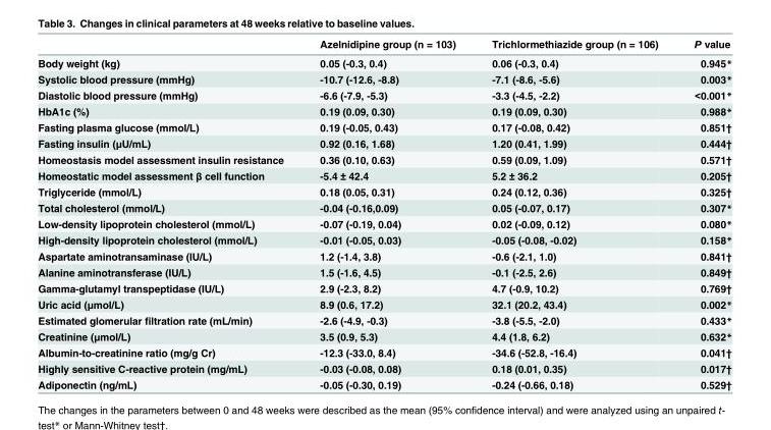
<table><thead><tr><td></td><td>Azelnidipine group (n = 103)</td><td>Trichlormethiazide group (n = 106)</td><td>P value</td></tr></thead><tbody><tr><td>Body weight (kg)</td><td>0.05 (-0.3, 0.4)</td><td>0.06 (-0.3, 0.4)</td><td>0.945*</td></tr><tr><td>Systolic blood pressure (mmHg)</td><td>-10.7 (-12.6, -8.8)</td><td>-7.1 (-8.6, -5.6)</td><td>0.003*</td></tr><tr><td>Diastolic blood pressure (mmHg)</td><td>-6.6 (-7.9, -5.3)</td><td>-3.3 (-4.5, -2.2)</td><td>&lt;0.001*</td></tr><tr><td>HbA1c (%)</td><td>0.19 (0.09, 0.30)</td><td>0.19 (0.09, 0.30)</td><td>0.988*</td></tr><tr><td>Fasting plasma glucose (mmol/L)</td><td>0.19 (-0.05, 0.43)</td><td>0.17 (-0.08, 0.42)</td><td>0.851†</td></tr><tr><td>Fasting insulin (μU/mL)</td><td>0.92 (0.16, 1.68)</td><td>1.20 (0.41, 1.99)</td><td>0.444†</td></tr><tr><td>Homeostasis model assessment insulin resistance</td><td>0.36 (0.10, 0.63)</td><td>0.59 (0.09, 1.09)</td><td>0.571†</td></tr><tr><td>Homeostatic model assessment β cell function</td><td>-5.4 ± 42.4</td><td>5.2 ± 36.2</td><td>0.205†</td></tr><tr><td>Triglyceride (mmol/L)</td><td>0.18 (0.05, 0.31)</td><td>0.24 (0.12, 0.36)</td><td>0.325†</td></tr><tr><td>Total cholesterol (mmol/L)</td><td>-0.04 (-0.16,0.09)</td><td>0.05 (-0.07, 0.17)</td><td>0.307*</td></tr><tr><td>Low-density lipoprotein cholesterol (mmol/L)</td><td>-0.07 (-0.19, 0.04)</td><td>0.02 (-0.09, 0.12)</td><td>0.080*</td></tr><tr><td>High-density lipoprotein cholesterol (mmol/L)</td><td>-0.01 (-0.05, 0.03)</td><td>-0.05 (-0.08, -0.02)</td><td>0.158*</td></tr><tr><td>Aspartate aminotransaminase (IU/L)</td><td>1.2 (-1.4, 3.8)</td><td>-0.6 (-2.1, 1.0)</td><td>0.841†</td></tr><tr><td>Alanine aminotransferase (IU/L)</td><td>1.5 (-1.6, 4.5)</td><td>-0.1 (-2.5, 2.6)</td><td>0.849†</td></tr><tr><td>Gamma-glutamyl transpeptidase (IU/L)</td><td>2.9 (-2.3, 8.2)</td><td>4.7 (-0.9, 10.2)</td><td>0.769†</td></tr><tr><td>Uric acid (μmol/L)</td><td>8.9 (0.6, 17.2)</td><td>32.1 (20.2, 43.4)</td><td>0.002*</td></tr><tr><td>Estimated glomerular filtration rate (mL/min)</td><td>-2.6 (-4.9, -0.3)</td><td>-3.8 (-5.5, -2.0)</td><td>0.433*</td></tr><tr><td>Creatinine (μmol/L)</td><td>3.5 (0.9, 5.3)</td><td>4.4 (1.8, 6.2)</td><td>0.632*</td></tr><tr><td>Albumin-to-creatinine ratio (mg/g Cr)</td><td>-12.3 (-33.0, 8.4)</td><td>-34.6 (-52.8, -16.4)</td><td>0.041†</td></tr><tr><td>Highly sensitive C-reactive protein (mg/mL)</td><td>-0.03 (-0.08, 0.08)</td><td>0.18 (0.01, 0.35)</td><td>0.017†</td></tr><tr><td>Adiponectin (ng/mL)</td><td>-0.05 (-0.30, 0.19)</td><td>-0.24 (-0.66, 0.18)</td><td>0.529†</td></tr></tbody></table>